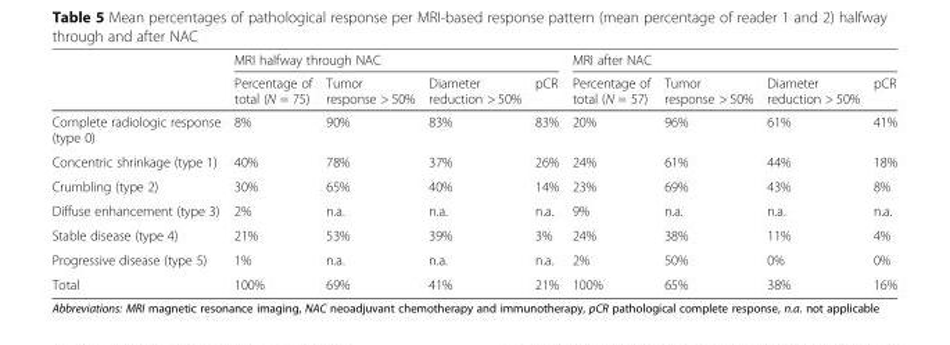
<table><thead><tr><td rowspan="2"></td><td colspan="4">MRI halfway through NAC</td><td colspan="4">MRI after NAC</td></tr><tr><td>Percentage of total (N = 75)</td><td>Tumor response &gt; 50%</td><td>Diameter reduction &gt; 50%</td><td>pCR</td><td>Percentage of total (N = 57)</td><td>Tumor response &gt; 50%</td><td>Diameter reduction &gt; 50%</td><td>pCR</td></tr></thead><tbody><tr><td>Complete radiologic response (type 0)</td><td>8%</td><td>90%</td><td>83%</td><td>83%</td><td>20%</td><td>96%</td><td>61%</td><td>41%</td></tr><tr><td>Concentric shrinkage (type 1)</td><td>40%</td><td>78%</td><td>37%</td><td>26%</td><td>24%</td><td>61%</td><td>44%</td><td>18%</td></tr><tr><td>Crumbling (type 2)</td><td>30%</td><td>65%</td><td>40%</td><td>14%</td><td>23%</td><td>69%</td><td>43%</td><td>8%</td></tr><tr><td>Diffuse enhancement (type 3)</td><td>2%</td><td>n.a.</td><td>n.a.</td><td>n.a.</td><td>9%</td><td>n.a.</td><td>n.a.</td><td>n.a.</td></tr><tr><td>Stable disease (type 4)</td><td>21%</td><td>53%</td><td>39%</td><td>3%</td><td>24%</td><td>38%</td><td>11%</td><td>4%</td></tr><tr><td>Progressive disease (type 5)</td><td>1%</td><td>n.a.</td><td>n.a.</td><td>n.a.</td><td>2%</td><td>50%</td><td>0%</td><td>0%</td></tr><tr><td>Total</td><td>100%</td><td>69%</td><td>41%</td><td>21%</td><td>100%</td><td>65%</td><td>38%</td><td>16%</td></tr></tbody></table>